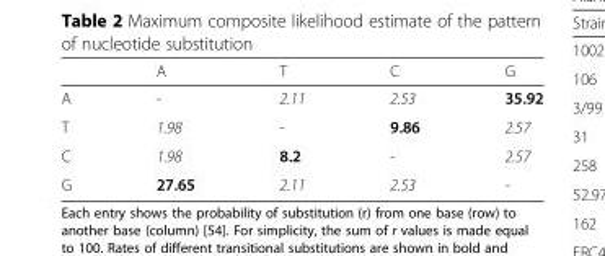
<table><thead><tr><td></td><td>A</td><td>T</td><td>C</td><td>G</td></tr></thead><tbody><tr><td>A</td><td>-</td><td>2.11</td><td>2.53</td><td>35.92</td></tr><tr><td>T</td><td>1.98</td><td>-</td><td>9.86</td><td>2.57</td></tr><tr><td>C</td><td>1.98</td><td>8.2</td><td>-</td><td>2.57</td></tr><tr><td>G</td><td>27.65</td><td>2.11</td><td>2.53</td><td>-</td></tr></tbody></table>